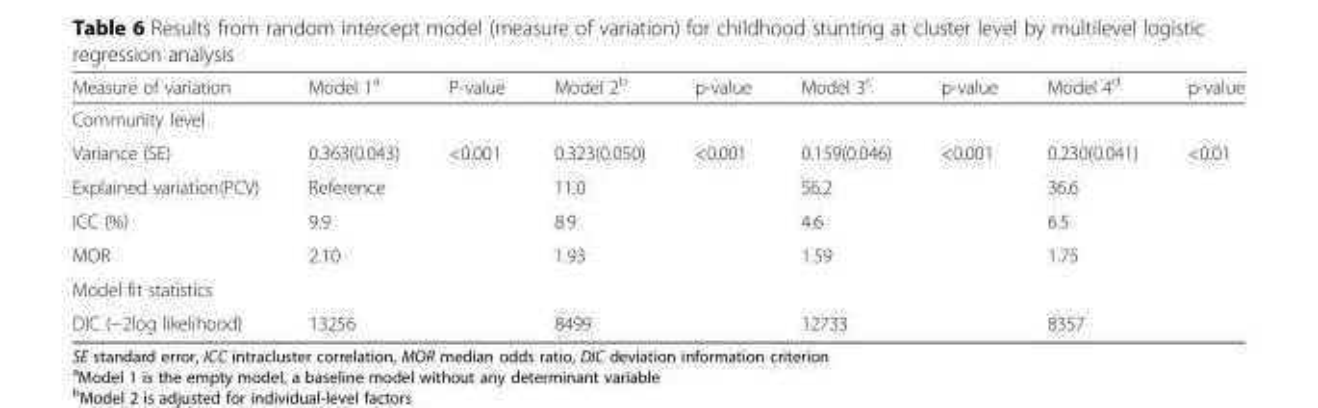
<table><thead><tr><td>Measure of variation</td><td>Model 1<sup>a</sup></td><td>P-value</td><td>Model 2<sup>b</sup></td><td>p-value</td><td>Model 3<sup>c</sup></td><td>p-value</td><td>Model 4<sup>d</sup></td><td>p-value</td></tr></thead><tbody><tr><td colspan="9">Community level</td></tr><tr><td>Variance (SE)</td><td>0.363(0.043)</td><td>&lt;0.001</td><td>0.323(0.050)</td><td>&lt;0.001</td><td>0.159(0.046)</td><td>&lt;0.001</td><td>0.230(0.041)</td><td>&lt;0.01</td></tr><tr><td>Explained variation(PCV)</td><td>Reference</td><td></td><td>11.0</td><td></td><td>56.2</td><td></td><td>36.6</td><td></td></tr><tr><td>ICC (%)</td><td>9.9</td><td></td><td>8.9</td><td></td><td>4.6</td><td></td><td>6.5</td><td></td></tr><tr><td>MOR</td><td>2.10</td><td></td><td>1.93</td><td></td><td>1.59</td><td></td><td>1.75</td><td></td></tr><tr><td colspan="9">Model fit statistics</td></tr><tr><td>DIC (−2log likelihood)</td><td>13256</td><td></td><td>8499</td><td></td><td>12733</td><td></td><td>8357</td><td></td></tr></tbody></table>